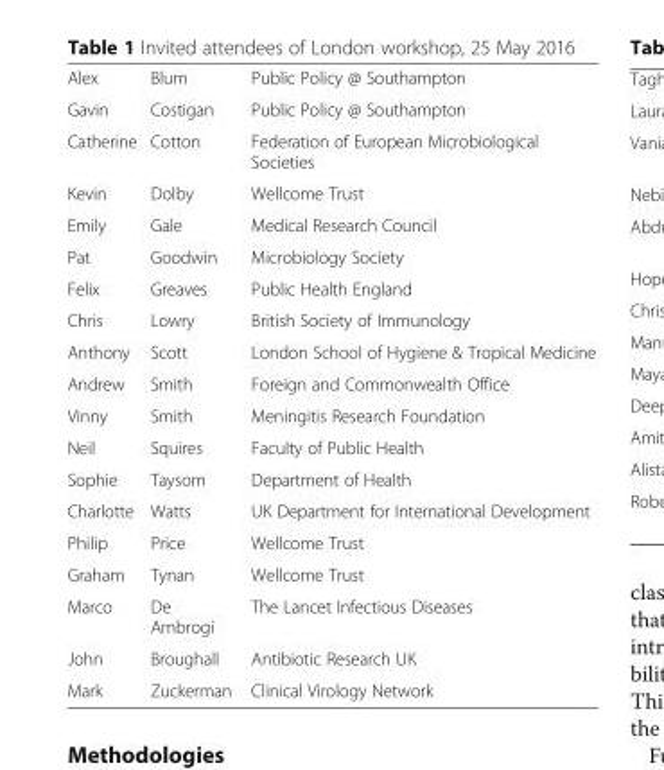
<table><tbody><tr><td>Alex</td><td>Blum</td><td>Public Policy @ Southampton</td></tr><tr><td>Gavin</td><td>Costigan</td><td>Public Policy @ Southampton</td></tr><tr><td>Catherine</td><td>Cotton</td><td>Federation of European Microbiological Societies</td></tr><tr><td>Kevin</td><td>Dolby</td><td>Wellcome Trust</td></tr><tr><td>Emily</td><td>Gale</td><td>Medical Research Council</td></tr><tr><td>Pat</td><td>Goodwin</td><td>Microbiology Society</td></tr><tr><td>Felix</td><td>Greaves</td><td>Public Health England</td></tr><tr><td>Chris</td><td>Lowry</td><td>British Society of Immunology</td></tr><tr><td>Anthony</td><td>Scott</td><td>London School of Hygiene &amp; Tropical Medicine</td></tr><tr><td>Andrew</td><td>Smith</td><td>Foreign and Commonwealth Office</td></tr><tr><td>Vinny</td><td>Smith</td><td>Meningitis Research Foundation</td></tr><tr><td>Neil</td><td>Squires</td><td>Faculty of Public Health</td></tr><tr><td>Sophie</td><td>Taysom</td><td>Department of Health</td></tr><tr><td>Charlotte</td><td>Watts</td><td>UK Department for International Development</td></tr><tr><td>Philip</td><td>Price</td><td>Wellcome Trust</td></tr><tr><td>Graham</td><td>Tynan</td><td>Wellcome Trust</td></tr><tr><td>Marco</td><td>De Ambrogi</td><td>The Lancet Infectious Diseases</td></tr><tr><td>John</td><td>Broughall</td><td>Antibiotic Research UK</td></tr><tr><td>Mark</td><td>Zuckerman</td><td>Clinical Virology Network</td></tr></tbody></table>